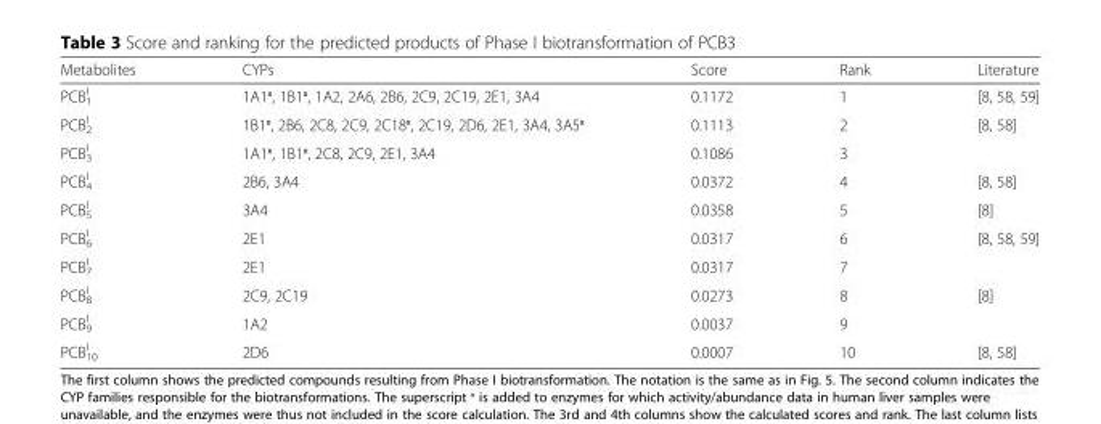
<table><thead><tr><td>Metabolites</td><td>CYPs</td><td>Score</td><td>Rank</td><td>Literature</td></tr></thead><tbody><tr><td>PCB<sup>I</sup> <sub>1</sub></td><td>1A1ˣ, 1B1ˣ, 1A2, 2A6, 2B6, 2C9, 2C19, 2E1, 3A4</td><td>0.1172</td><td>1</td><td>[8, 58, 59]</td></tr><tr><td>PCB<sup>I</sup> <sub>2</sub></td><td>1B1ˣ, 2B6, 2C8, 2C9, 2C18ˣ, 2C19, 2D6, 2E1, 3A4, 3A5ˣ</td><td>0.1113</td><td>2</td><td>[8, 58]</td></tr><tr><td>PCB<sup>I</sup> <sub>3</sub></td><td>1A1ˣ, 1B1ˣ, 2C8, 2C9, 2E1, 3A4</td><td>0.1086</td><td>3</td><td></td></tr><tr><td>PCB<sup>I</sup> <sub>4</sub></td><td>2B6, 3A4</td><td>0.0372</td><td>4</td><td>[8, 58]</td></tr><tr><td>PCB<sup>I</sup> <sub>5</sub></td><td>3A4</td><td>0.0358</td><td>5</td><td>[8]</td></tr><tr><td>PCB<sup>I</sup> <sub>6</sub></td><td>2E1</td><td>0.0317</td><td>6</td><td>[8, 58, 59]</td></tr><tr><td>PCB<sup>I</sup> <sub>7</sub></td><td>2E1</td><td>0.0317</td><td>7</td><td></td></tr><tr><td>PCB<sup>I</sup> <sub>8</sub></td><td>2C9, 2C19</td><td>0.0273</td><td>8</td><td>[8]</td></tr><tr><td>PCB<sup>I</sup> <sub>9</sub></td><td>1A2</td><td>0.0037</td><td>9</td><td></td></tr><tr><td>PCB<sup>I</sup> <sub>10</sub></td><td>2D6</td><td>0.0007</td><td>10</td><td>[8, 58]</td></tr></tbody></table>